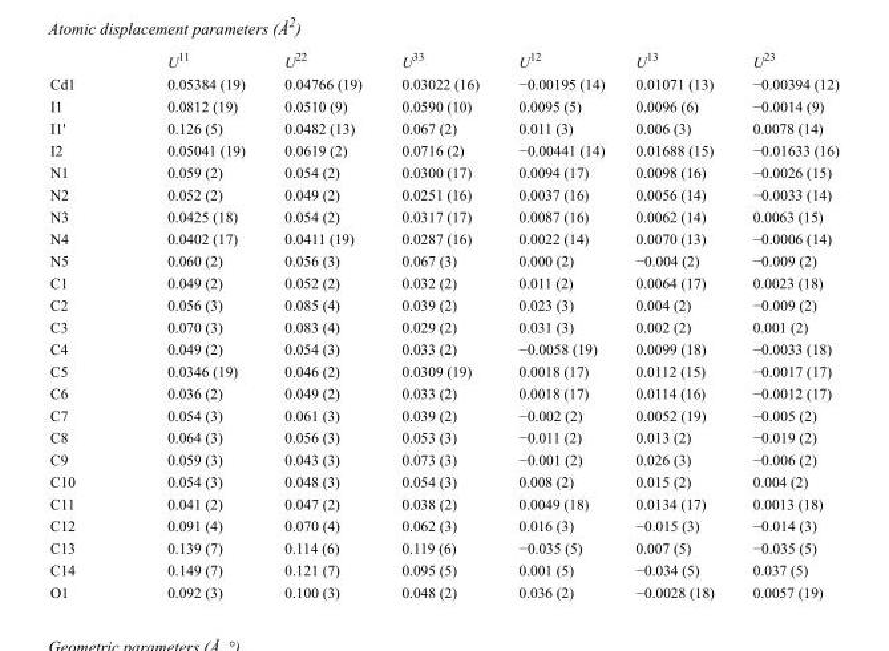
<table><thead><tr><td></td><td>U<sup>11</sup></td><td>U<sup>22</sup></td><td>U<sup>33</sup></td><td>U<sup>12</sup></td><td>U<sup>13</sup></td><td>U<sup>23</sup></td></tr></thead><tbody><tr><td>Cd1</td><td>0.05384 (19)</td><td>0.04766 (19)</td><td>0.03022 (16)</td><td>−0.00195 (14)</td><td>0.01071 (13)</td><td>−0.00394 (12)</td></tr><tr><td>I1</td><td>0.0812 (19)</td><td>0.0510 (9)</td><td>0.0590 (10)</td><td>0.0095 (5)</td><td>0.0096 (6)</td><td>−0.0014 (9)</td></tr><tr><td>I1&#x27;</td><td>0.126 (5)</td><td>0.0482 (13)</td><td>0.067 (2)</td><td>0.011 (3)</td><td>0.006 (3)</td><td>0.0078 (14)</td></tr><tr><td>I2</td><td>0.05041 (19)</td><td>0.0619 (2)</td><td>0.0716 (2)</td><td>−0.00441 (14)</td><td>0.01688 (15)</td><td>−0.01633 (16)</td></tr><tr><td>N1</td><td>0.059 (2)</td><td>0.054 (2)</td><td>0.0300 (17)</td><td>0.0094 (17)</td><td>0.0098 (16)</td><td>−0.0026 (15)</td></tr><tr><td>N2</td><td>0.052 (2)</td><td>0.049 (2)</td><td>0.0251 (16)</td><td>0.0037 (16)</td><td>0.0056 (14)</td><td>−0.0033 (14)</td></tr><tr><td>N3</td><td>0.0425 (18)</td><td>0.054 (2)</td><td>0.0317 (17)</td><td>0.0087 (16)</td><td>0.0062 (14)</td><td>0.0063 (15)</td></tr><tr><td>N4</td><td>0.0402 (17)</td><td>0.0411 (19)</td><td>0.0287 (16)</td><td>0.0022 (14)</td><td>0.0070 (13)</td><td>−0.0006 (14)</td></tr><tr><td>N5</td><td>0.060 (2)</td><td>0.056 (3)</td><td>0.067 (3)</td><td>0.000 (2)</td><td>−0.004 (2)</td><td>−0.009 (2)</td></tr><tr><td>C1</td><td>0.049 (2)</td><td>0.052 (2)</td><td>0.032 (2)</td><td>0.011 (2)</td><td>0.0064 (17)</td><td>0.0023 (18)</td></tr><tr><td>C2</td><td>0.056 (3)</td><td>0.085 (4)</td><td>0.039 (2)</td><td>0.023 (3)</td><td>0.004 (2)</td><td>−0.009 (2)</td></tr><tr><td>C3</td><td>0.070 (3)</td><td>0.083 (4)</td><td>0.029 (2)</td><td>0.031 (3)</td><td>0.002 (2)</td><td>0.001 (2)</td></tr><tr><td>C4</td><td>0.049 (2)</td><td>0.054 (3)</td><td>0.033 (2)</td><td>−0.0058 (19)</td><td>0.0099 (18)</td><td>−0.0033 (18)</td></tr><tr><td>C5</td><td>0.0346 (19)</td><td>0.046 (2)</td><td>0.0309 (19)</td><td>0.0018 (17)</td><td>0.0112 (15)</td><td>−0.0017 (17)</td></tr><tr><td>C6</td><td>0.036 (2)</td><td>0.049 (2)</td><td>0.033 (2)</td><td>0.0018 (17)</td><td>0.0114 (16)</td><td>−0.0012 (17)</td></tr><tr><td>C7</td><td>0.054 (3)</td><td>0.061 (3)</td><td>0.039 (2)</td><td>−0.002 (2)</td><td>0.0052 (19)</td><td>−0.005 (2)</td></tr><tr><td>C8</td><td>0.064 (3)</td><td>0.056 (3)</td><td>0.053 (3)</td><td>−0.011 (2)</td><td>0.013 (2)</td><td>−0.019 (2)</td></tr><tr><td>C9</td><td>0.059 (3)</td><td>0.043 (3)</td><td>0.073 (3)</td><td>−0.001 (2)</td><td>0.026 (3)</td><td>−0.006 (2)</td></tr><tr><td>C10</td><td>0.054 (3)</td><td>0.048 (3)</td><td>0.054 (3)</td><td>0.008 (2)</td><td>0.015 (2)</td><td>0.004 (2)</td></tr><tr><td>C11</td><td>0.041 (2)</td><td>0.047 (2)</td><td>0.038 (2)</td><td>0.0049 (18)</td><td>0.0134 (17)</td><td>0.0013 (18)</td></tr><tr><td>C12</td><td>0.091 (4)</td><td>0.070 (4)</td><td>0.062 (3)</td><td>0.016 (3)</td><td>−0.015 (3)</td><td>−0.014 (3)</td></tr><tr><td>C13</td><td>0.139 (7)</td><td>0.114 (6)</td><td>0.119 (6)</td><td>−0.035 (5)</td><td>0.007 (5)</td><td>−0.035 (5)</td></tr><tr><td>C14</td><td>0.149 (7)</td><td>0.121 (7)</td><td>0.095 (5)</td><td>0.001 (5)</td><td>−0.034 (5)</td><td>0.037 (5)</td></tr><tr><td>O1</td><td>0.092 (3)</td><td>0.100 (3)</td><td>0.048 (2)</td><td>0.036 (2)</td><td>−0.0028 (18)</td><td>0.0057 (19)</td></tr></tbody></table>